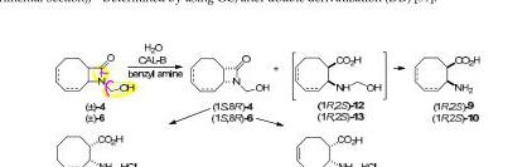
<table><thead><tr><td>Entry</td><td>Substrate</td><td>R. Time (h)</td><td>Conv. c (%)</td><td>ees d (%)</td><td>eep e (%)</td></tr></thead><tbody><tr><td>1</td><td>(±)-3</td><td>5</td><td>43</td><td>75</td><td>&gt;99</td></tr><tr><td>2</td><td>(±)-5</td><td>5</td><td>46</td><td>84</td><td>&gt;99</td></tr><tr><td>3</td><td>(±)-4</td><td>3</td><td>49</td><td>96</td><td>&gt;99</td></tr><tr><td>4</td><td>(±)-6</td><td>3</td><td>50</td><td>&gt;99</td><td>98</td></tr></tbody></table>